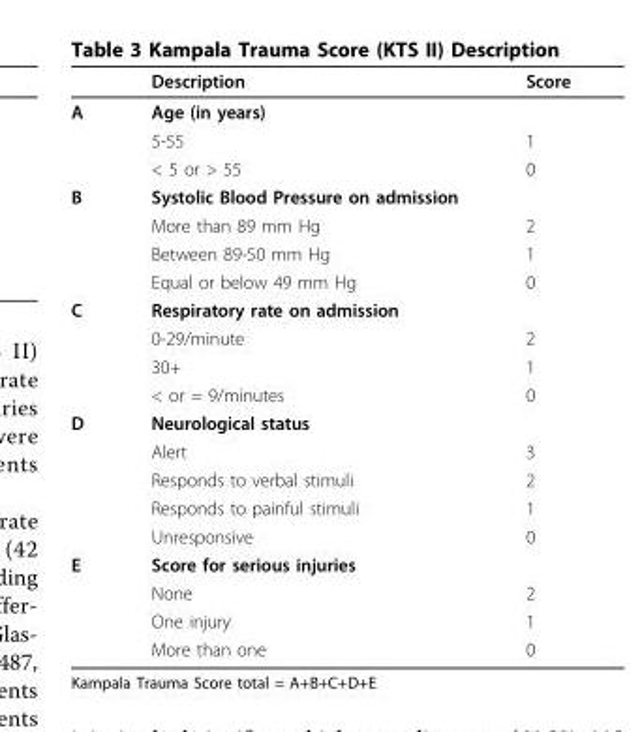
<table><thead><tr><td></td><td>Description</td><td>Score</td></tr></thead><tbody><tr><td rowspan="3">A</td><td>Age (in years)</td><td></td></tr><tr><td>5-55</td><td>1</td></tr><tr><td>&lt; 5 or &gt; 55</td><td>0</td></tr><tr><td rowspan="4">B</td><td>Systolic Blood Pressure on admission</td><td></td></tr><tr><td>More than 89 mm Hg</td><td>2</td></tr><tr><td>Between 89-50 mm Hg</td><td>1</td></tr><tr><td>Equal or below 49 mm Hg</td><td>0</td></tr><tr><td rowspan="4">C</td><td>Respiratory rate on admission</td><td></td></tr><tr><td>0-29/minute</td><td>2</td></tr><tr><td>30+</td><td>1</td></tr><tr><td>&lt; or = 9/minutes</td><td>0</td></tr><tr><td rowspan="5">D</td><td>Neurological status</td><td></td></tr><tr><td>Alert</td><td>3</td></tr><tr><td>Responds to verbal stimuli</td><td>2</td></tr><tr><td>Responds to painful stimuli</td><td>1</td></tr><tr><td>Unresponsive</td><td>0</td></tr><tr><td rowspan="4">E</td><td>Score for serious injuries</td><td></td></tr><tr><td>None</td><td>2</td></tr><tr><td>One injury</td><td>1</td></tr><tr><td>More than one</td><td>0</td></tr></tbody></table>